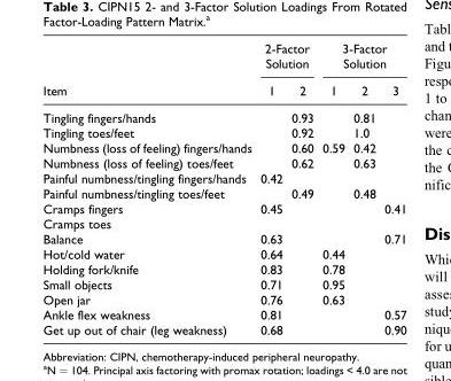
<table><thead><tr><td rowspan="2">Item</td><td colspan="2">2-Factor Solution</td><td colspan="3">3-Factor Solution</td></tr><tr><td>1</td><td>2</td><td>1</td><td>2</td><td>3</td></tr></thead><tbody><tr><td>Tingling fingers/hands</td><td></td><td>0.93</td><td></td><td>0.81</td><td></td></tr><tr><td>Tingling toes/feet</td><td></td><td>0.92</td><td></td><td>1.0</td><td></td></tr><tr><td>Numbness (loss of feeling) fingers/hands</td><td></td><td>0.60</td><td>0.59</td><td>0.42</td><td></td></tr><tr><td>Numbness (loss of feeling) toes/feet</td><td></td><td>0.62</td><td></td><td>0.63</td><td></td></tr><tr><td>Painful numbness/tingling fingers/hands</td><td>0.42</td><td></td><td></td><td></td><td></td></tr><tr><td>Painful numbness/tingling toes/feet</td><td></td><td>0.49</td><td></td><td>0.48</td><td></td></tr><tr><td>Cramps fingers</td><td>0.45</td><td></td><td></td><td></td><td>0.41</td></tr><tr><td colspan="6">Cramps toes</td></tr><tr><td>Balance</td><td>0.63</td><td></td><td></td><td></td><td>0.71</td></tr><tr><td>Hot/cold water</td><td>0.64</td><td></td><td>0.44</td><td></td><td></td></tr><tr><td>Holding fork/knife</td><td>0.83</td><td></td><td>0.78</td><td></td><td></td></tr><tr><td>Small objects</td><td>0.71</td><td></td><td>0.95</td><td></td><td></td></tr><tr><td>Open jar</td><td>0.76</td><td></td><td>0.63</td><td></td><td></td></tr><tr><td>Ankle flex weakness</td><td>0.81</td><td></td><td></td><td></td><td>0.57</td></tr><tr><td>Get up out of chair (leg weakness)</td><td>0.68</td><td></td><td></td><td></td><td>0.90</td></tr></tbody></table>